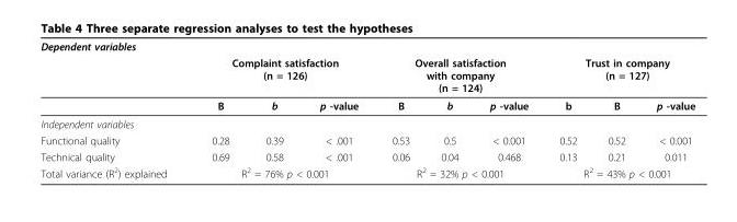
<table><thead><tr><td colspan="3">Dependent variables</td><td></td><td></td><td></td><td></td><td></td><td></td><td></td></tr><tr><td rowspan="2"></td><td colspan="3">Complaint satisfaction (n = 126)</td><td colspan="3">Overall satisfaction with company (n = 124)</td><td colspan="3">Trust in company (n = 127)</td></tr><tr><td>B</td><td>b</td><td>p -value</td><td>B</td><td>b</td><td>p -value</td><td>b</td><td>B</td><td>p -value</td></tr></thead><tbody><tr><td colspan="10">Independent variables</td></tr><tr><td>Functional quality</td><td>0.28</td><td>0.39</td><td>&lt; .001</td><td>0.53</td><td>0.5</td><td>&lt; 0.001</td><td>0.52</td><td>0.52</td><td>&lt; 0.001</td></tr><tr><td>Technical quality</td><td>0.69</td><td>0.58</td><td>&lt; .001</td><td>0.06</td><td>0.04</td><td>0.468</td><td>0.13</td><td>0.21</td><td>0.011</td></tr><tr><td>Total variance (R<sup>2</sup>) explained</td><td colspan="3">R<sup>2</sup> = 76% p &lt; 0.001</td><td colspan="3">R<sup>2</sup> = 32% p &lt; 0.001</td><td colspan="3">R<sup>2</sup> = 43% p &lt; 0.001</td></tr></tbody></table>